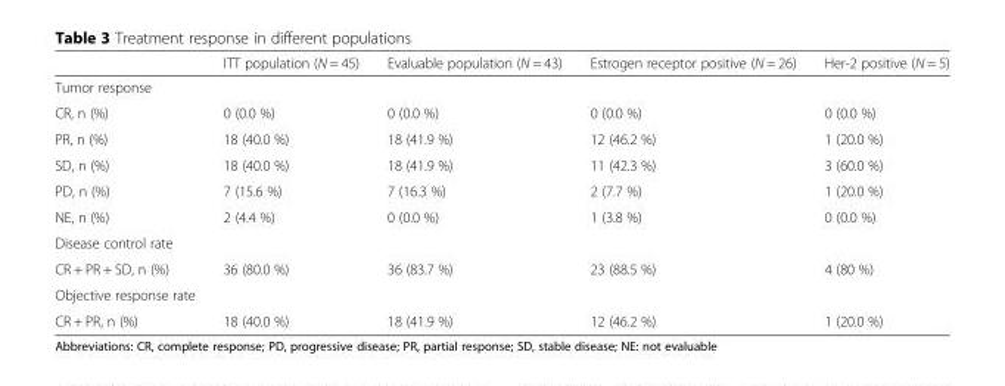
<table><thead><tr><td></td><td>ITT population (N = 45)</td><td>Evaluable population (N = 43)</td><td>Estrogen receptor positive (N = 26)</td><td>Her-2 positive (N = 5)</td></tr></thead><tbody><tr><td colspan="5">Tumor response</td></tr><tr><td>CR, n (%)</td><td>0 (0.0 %)</td><td>0 (0.0 %)</td><td>0 (0.0 %)</td><td>0 (0.0 %)</td></tr><tr><td>PR, n (%)</td><td>18 (40.0 %)</td><td>18 (41.9 %)</td><td>12 (46.2 %)</td><td>1 (20.0 %)</td></tr><tr><td>SD, n (%)</td><td>18 (40.0 %)</td><td>18 (41.9 %)</td><td>11 (42.3 %)</td><td>3 (60.0 %)</td></tr><tr><td>PD, n (%)</td><td>7 (15.6 %)</td><td>7 (16.3 %)</td><td>2 (7.7 %)</td><td>1 (20.0 %)</td></tr><tr><td>NE, n (%)</td><td>2 (4.4 %)</td><td>0 (0.0 %)</td><td>1 (3.8 %)</td><td>0 (0.0 %)</td></tr><tr><td colspan="5">Disease control rate</td></tr><tr><td>CR + PR + SD, n (%)</td><td>36 (80.0 %)</td><td>36 (83.7 %)</td><td>23 (88.5 %)</td><td>4 (80 %)</td></tr><tr><td colspan="5">Objective response rate</td></tr><tr><td>CR + PR, n (%)</td><td>18 (40.0 %)</td><td>18 (41.9 %)</td><td>12 (46.2 %)</td><td>1 (20.0 %)</td></tr></tbody></table>